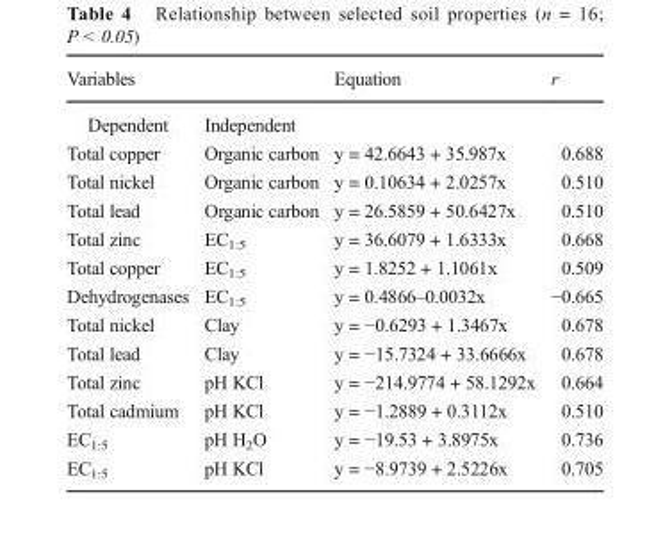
<table><thead><tr><td colspan="2">Variables</td><td rowspan="2">Equation</td><td rowspan="2">r</td></tr><tr><td>Dependent</td><td>Independent</td></tr></thead><tbody><tr><td>Total copper</td><td>Organic carbon</td><td>y = 42.6643 + 35.987x</td><td>0.688</td></tr><tr><td>Total nickel</td><td>Organic carbon</td><td>y = 0.10634 + 2.0257x</td><td>0.510</td></tr><tr><td>Total lead</td><td>Organic carbon</td><td>y = 26.5859 + 50.6427x</td><td>0.510</td></tr><tr><td>Total zinc</td><td>EC<sub>1:5</sub></td><td>y = 36.6079 + 1.6333x</td><td>0.668</td></tr><tr><td>Total copper</td><td>EC<sub>1:5</sub></td><td>y = 1.8252 + 1.1061x</td><td>0.509</td></tr><tr><td>Dehydrogenases</td><td>EC<sub>1:5</sub></td><td>y = 0.4866–0.0032x</td><td>−0.665</td></tr><tr><td>Total nickel</td><td>Clay</td><td>y = −0.6293 + 1.3467x</td><td>0.678</td></tr><tr><td>Total lead</td><td>Clay</td><td>y = −15.7324 + 33.6666x</td><td>0.678</td></tr><tr><td>Total zinc</td><td>pH KCl</td><td>y = −214.9774 + 58.1292x</td><td>0.664</td></tr><tr><td>Total cadmium</td><td>pH KCl</td><td>y = −1.2889 + 0.3112x</td><td>0.510</td></tr><tr><td>EC<sub>1:5</sub></td><td>pH H<sub>2</sub>O</td><td>y = −19.53 + 3.8975x</td><td>0.736</td></tr><tr><td>EC<sub>1:5</sub></td><td>pH KCl</td><td>y = −8.9739 + 2.5226x</td><td>0.705</td></tr></tbody></table>